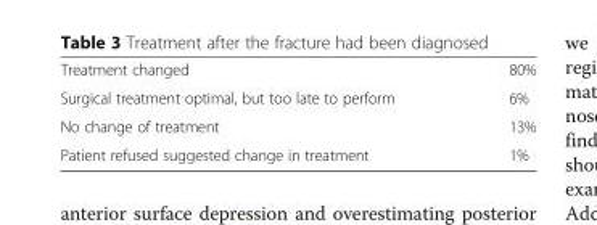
<table><tbody><tr><td>Treatment changed</td><td>80%</td></tr><tr><td>Surgical treatment optimal, but too late to perform</td><td>6%</td></tr><tr><td>No change of treatment</td><td>13%</td></tr><tr><td>Patient refused suggested change in treatment</td><td>1%</td></tr></tbody></table>